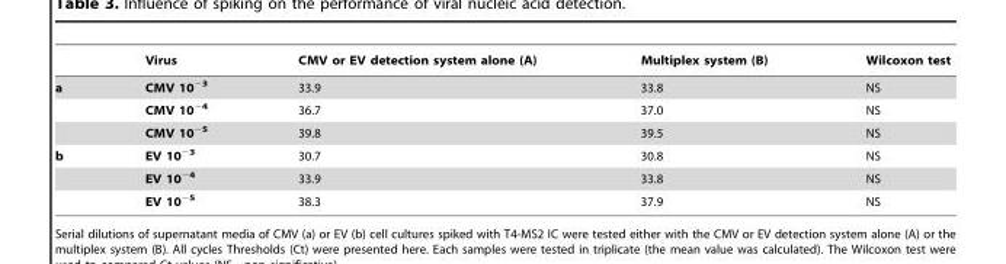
<table><thead><tr><td></td><td>Virus</td><td>CMV or EV detection system alone (A)</td><td>Multiplex system (B)</td><td>Wilcoxon test</td></tr></thead><tbody><tr><td rowspan="3">a</td><td>CMV 10<sup>−3</sup></td><td>33.9</td><td>33.8</td><td>NS</td></tr><tr><td>CMV 10<sup>−4</sup></td><td>36.7</td><td>37.0</td><td>NS</td></tr><tr><td>CMV 10<sup>−5</sup></td><td>39.8</td><td>39.5</td><td>NS</td></tr><tr><td rowspan="3">b</td><td>EV 10<sup>−3</sup></td><td>30.7</td><td>30.8</td><td>NS</td></tr><tr><td>EV 10<sup>−4</sup></td><td>33.9</td><td>33.8</td><td>NS</td></tr><tr><td>EV 10<sup>−5</sup></td><td>38.3</td><td>37.9</td><td>NS</td></tr></tbody></table>